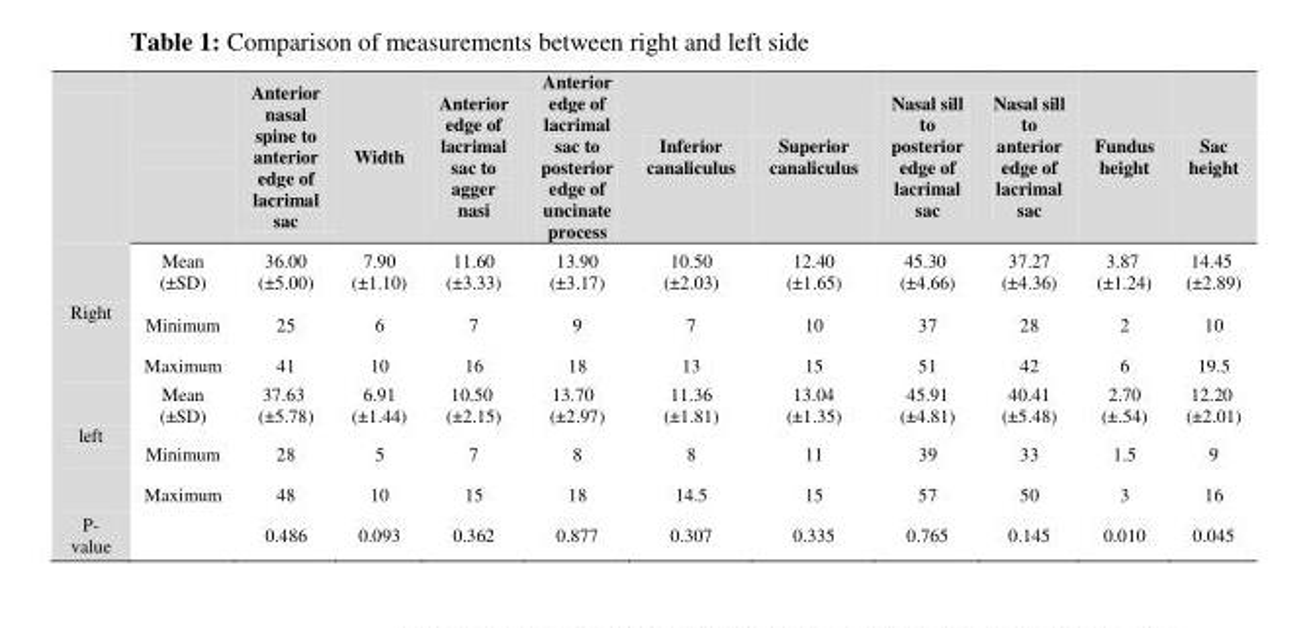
<table><thead><tr><td></td><td></td><td>Anterior nasal spine to anterior edge of lacrimal sac</td><td>Width</td><td>Anterior edge of lacrimal sac to agger nasi</td><td>Anterior edge of lacrimal sac to posterior edge of uncinate process</td><td>Inferior canaliculus</td><td>Superior canaliculus</td><td>Nasal sill to posterior edge of lacrimal sac</td><td>Nasal sill to anterior edge of lacrimal sac</td><td>Fundus height</td><td>Sac height</td></tr></thead><tbody><tr><td rowspan="3">Right</td><td>Mean (±SD)</td><td>36.00 (±5.00)</td><td>7.90 (±1.10)</td><td>11.60 (±3.33)</td><td>13.90 (±3.17)</td><td>10.50 (±2.03)</td><td>12.40 (±1.65)</td><td>45.30 (±4.66)</td><td>37.27 (±4.36)</td><td>3.87 (±1.24)</td><td>14.45 (±2.89)</td></tr><tr><td>Minimum</td><td>25</td><td>6</td><td>7</td><td>9</td><td>7</td><td>10</td><td>37</td><td>28</td><td>2</td><td>10</td></tr><tr><td>Maximum</td><td>41</td><td>10</td><td>16</td><td>18</td><td>13</td><td>15</td><td>51</td><td>42</td><td>6</td><td>19.5</td></tr><tr><td rowspan="3">left</td><td>Mean (±SD)</td><td>37.63 (±5.78)</td><td>6.91 (±1.44)</td><td>10.50 (±2.15)</td><td>13.70 (±2.97)</td><td>11.36 (±1.81)</td><td>13.04 (±1.35)</td><td>45.91 (±4.81)</td><td>40.41 (±5.48)</td><td>2.70 (±.54)</td><td>12.20 (±2.01)</td></tr><tr><td>Minimum</td><td>28</td><td>5</td><td>7</td><td>8</td><td>8</td><td>11</td><td>39</td><td>33</td><td>1.5</td><td>9</td></tr><tr><td>Maximum</td><td>48</td><td>10</td><td>15</td><td>18</td><td>14.5</td><td>15</td><td>57</td><td>50</td><td>3</td><td>16</td></tr><tr><td>P- value</td><td></td><td>0.486</td><td>0.093</td><td>0.362</td><td>0.877</td><td>0.307</td><td>0.335</td><td>0.765</td><td>0.145</td><td>0.010</td><td>0.045</td></tr></tbody></table>